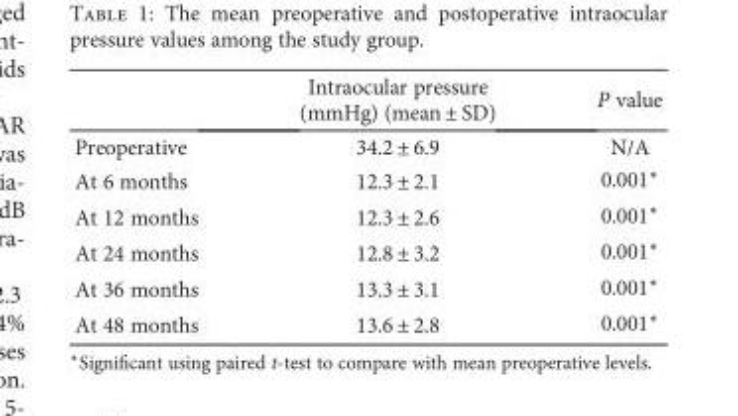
<table><thead><tr><td></td><td>Intraocular pressure (mmHg) (mean ± SD)</td><td>P value</td></tr></thead><tbody><tr><td>Preoperative</td><td>34.2 ± 6.9</td><td>N/A</td></tr><tr><td>At 6 months</td><td>12.3 ± 2.1</td><td>0.001∗</td></tr><tr><td>At 12 months</td><td>12.3 ± 2.6</td><td>0.001∗</td></tr><tr><td>At 24 months</td><td>12.8 ± 3.2</td><td>0.001∗</td></tr><tr><td>At 36 months</td><td>13.3 ± 3.1</td><td>0.001∗</td></tr><tr><td>At 48 months</td><td>13.6 ± 2.8</td><td>0.001∗</td></tr></tbody></table>